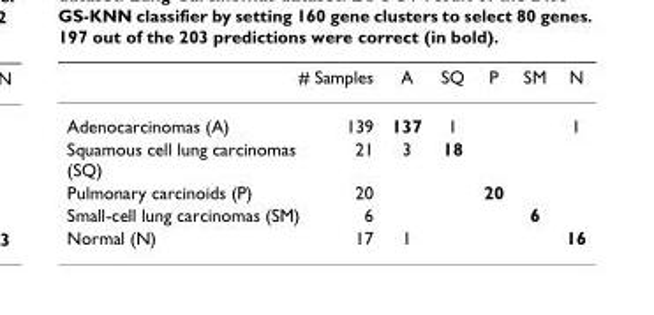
<table><thead><tr><td colspan="2"># Samples</td><td rowspan="2">A 137</td><td rowspan="2">SQ 1</td><td rowspan="2">P</td><td rowspan="2">SM</td><td rowspan="2">N 1</td></tr><tr><td>Adenocarcinomas (A)</td><td>139</td></tr></thead><tbody><tr><td>Squamous cell lung carcinomas (SQ)</td><td>21</td><td>3</td><td>18</td><td></td><td></td><td></td></tr><tr><td>Pulmonary carcinoids (P)</td><td>20</td><td></td><td></td><td>20</td><td></td><td></td></tr><tr><td>Small-cell lung carcinomas (SM)</td><td>6</td><td></td><td></td><td></td><td>6</td><td></td></tr><tr><td>Normal (N)</td><td>17</td><td>1</td><td></td><td></td><td></td><td>16</td></tr></tbody></table>